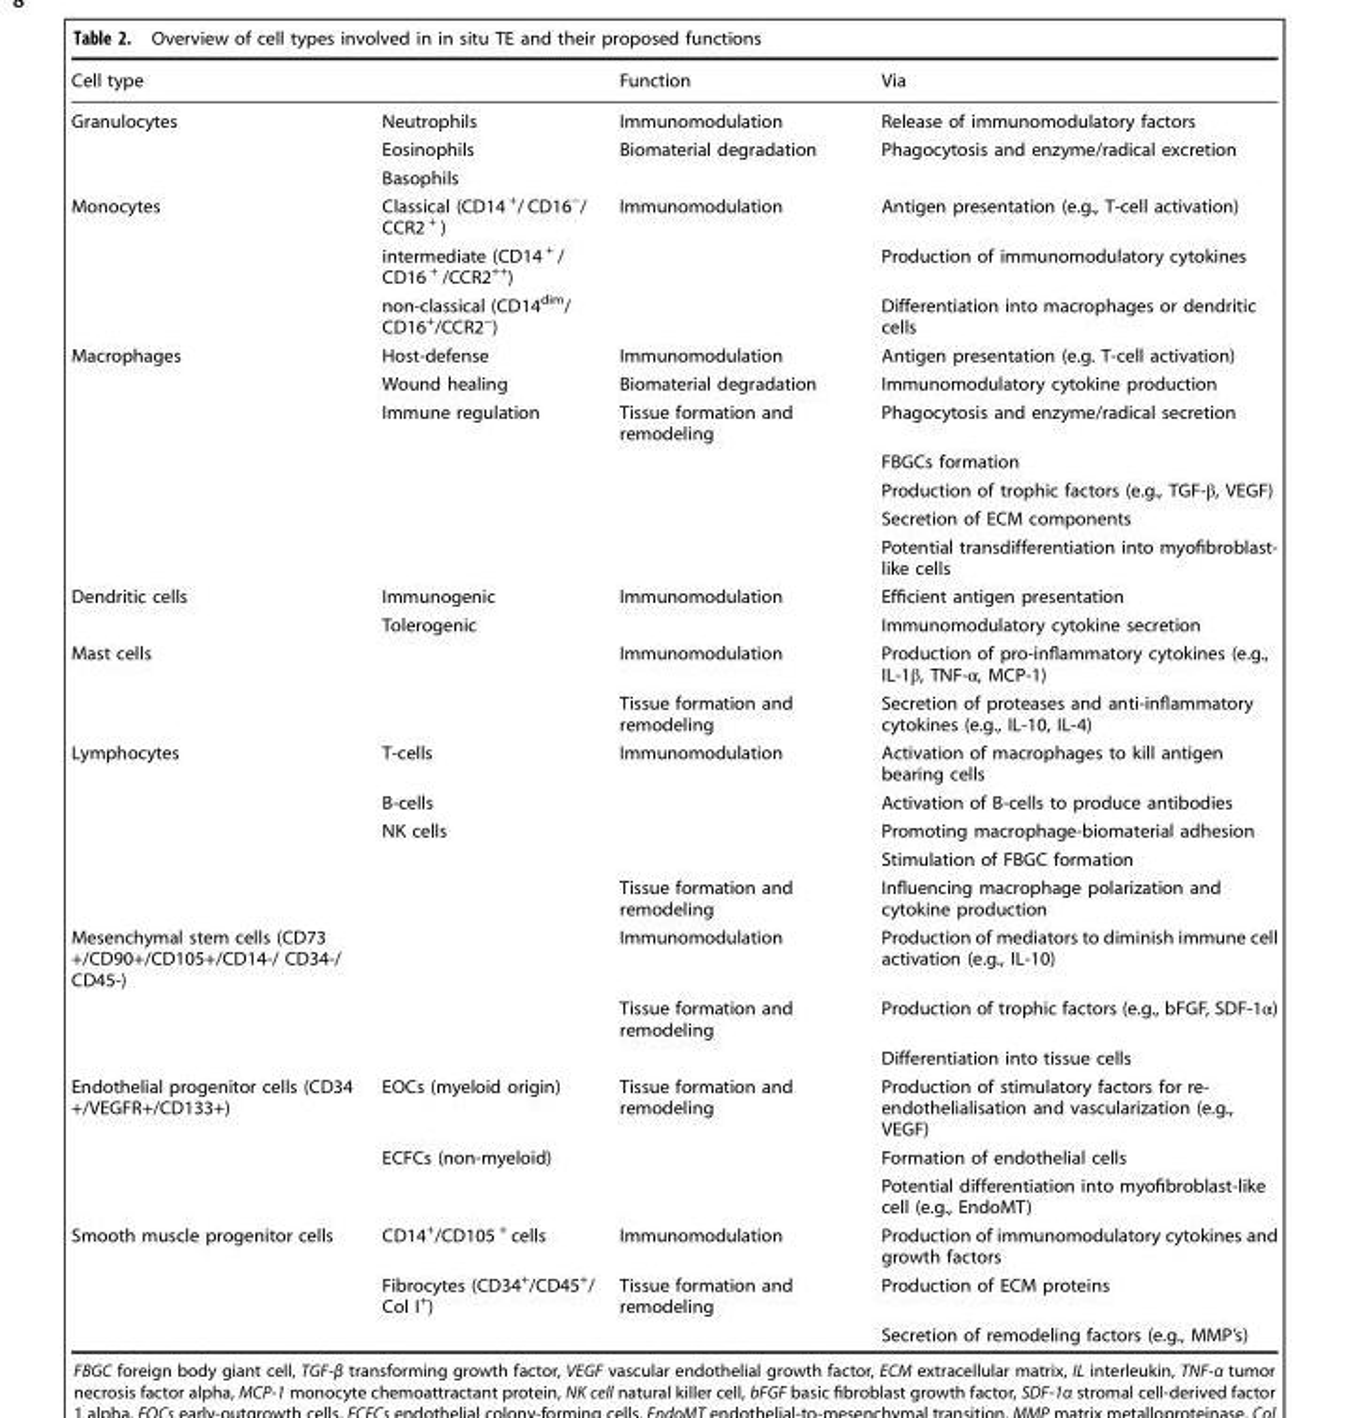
<table><thead><tr><td colspan="2">Cell type</td><td rowspan="2">Function Immunomodulation</td><td rowspan="2">Via Release of immunomodulatory factors</td></tr><tr><td>Granulocytes</td><td>Neutrophils</td></tr></thead><tbody><tr><td></td><td>Eosinophils</td><td>Biomaterial degradation</td><td>Phagocytosis and enzyme/radical excretion</td></tr><tr><td></td><td>Basophils</td><td></td><td></td></tr><tr><td rowspan="3">Monocytes</td><td>Classical (CD14 <sup>+</sup>/ CD16<sup>−</sup>/ CCR2 <sup>+</sup> )</td><td>Immunomodulation</td><td>Antigen presentation (e.g., T-cell activation)</td></tr><tr><td>intermediate (CD14 <sup>+</sup> / CD16 <sup>+</sup> /CCR2<sup>++</sup>)</td><td></td><td>Production of immunomodulatory cytokines</td></tr><tr><td>non-classical (CD14<sup>dim</sup>/ CD16<sup>+</sup>/CCR2<sup>−</sup>)</td><td></td><td>Differentiation into macrophages or dendritic cells</td></tr><tr><td rowspan="7">Macrophages</td><td>Host-defense</td><td>Immunomodulation</td><td>Antigen presentation (e.g. T-cell activation)</td></tr><tr><td>Wound healing</td><td>Biomaterial degradation</td><td>Immunomodulatory cytokine production</td></tr><tr><td>Immune regulation</td><td>Tissue formation and remodeling</td><td>Phagocytosis and enzyme/radical secretion</td></tr><tr><td></td><td></td><td>FBGCs formation</td></tr><tr><td></td><td></td><td>Production of trophic factors (e.g., TGF-β, VEGF)</td></tr><tr><td></td><td></td><td>Secretion of ECM components</td></tr><tr><td></td><td></td><td>Potential transdifferentiation into myofibroblast- like cells</td></tr><tr><td rowspan="2">Dendritic cells</td><td>Immunogenic</td><td>Immunomodulation</td><td>Efficient antigen presentation</td></tr><tr><td>Tolerogenic</td><td></td><td>Immunomodulatory cytokine secretion</td></tr><tr><td rowspan="2">Mast cells</td><td></td><td>Immunomodulation</td><td>Production of pro-inflammatory cytokines (e.g., IL-1β, TNF-α, MCP-1)</td></tr><tr><td></td><td>Tissue formation and remodeling</td><td>Secretion of proteases and anti-inflammatory cytokines (e.g., IL-10, IL-4)</td></tr><tr><td rowspan="5">Lymphocytes</td><td>T-cells</td><td>Immunomodulation</td><td>Activation of macrophages to kill antigen bearing cells</td></tr><tr><td>B-cells</td><td></td><td>Activation of B-cells to produce antibodies</td></tr><tr><td>NK cells</td><td></td><td>Promoting macrophage-biomaterial adhesion</td></tr><tr><td></td><td></td><td>Stimulation of FBGC formation</td></tr><tr><td></td><td>Tissue formation and remodeling</td><td>Influencing macrophage polarization and cytokine production</td></tr><tr><td rowspan="3">Mesenchymal stem cells (CD73 +/CD90+/CD105+/CD14-/ CD34-/ CD45-)</td><td></td><td>Immunomodulation</td><td>Production of mediators to diminish immune cell activation (e.g., IL-10)</td></tr><tr><td></td><td>Tissue formation and remodeling</td><td>Production of trophic factors (e.g., bFGF, SDF-1α)</td></tr><tr><td></td><td></td><td>Differentiation into tissue cells</td></tr><tr><td rowspan="3">Endothelial progenitor cells (CD34 +/VEGFR+/CD133+)</td><td>EOCs (myeloid origin)</td><td>Tissue formation and remodeling</td><td>Production of stimulatory factors for re- endothelialisation and vascularization (e.g., VEGF)</td></tr><tr><td>ECFCs (non-myeloid)</td><td></td><td>Formation of endothelial cells</td></tr><tr><td></td><td></td><td>Potential differentiation into myofibroblast-like cell (e.g., EndoMT)</td></tr><tr><td rowspan="3">Smooth muscle progenitor cells</td><td>CD14<sup>+</sup>/CD105 <sup>+</sup> cells</td><td>Immunomodulation</td><td>Production of immunomodulatory cytokines and growth factors</td></tr><tr><td>Fibrocytes (CD34<sup>+</sup>/CD45<sup>+</sup>/ Col I<sup>+</sup>)</td><td>Tissue formation and remodeling</td><td>Production of ECM proteins</td></tr><tr><td></td><td></td><td>Secretion of remodeling factors (e.g., MMP’s)</td></tr></tbody></table>